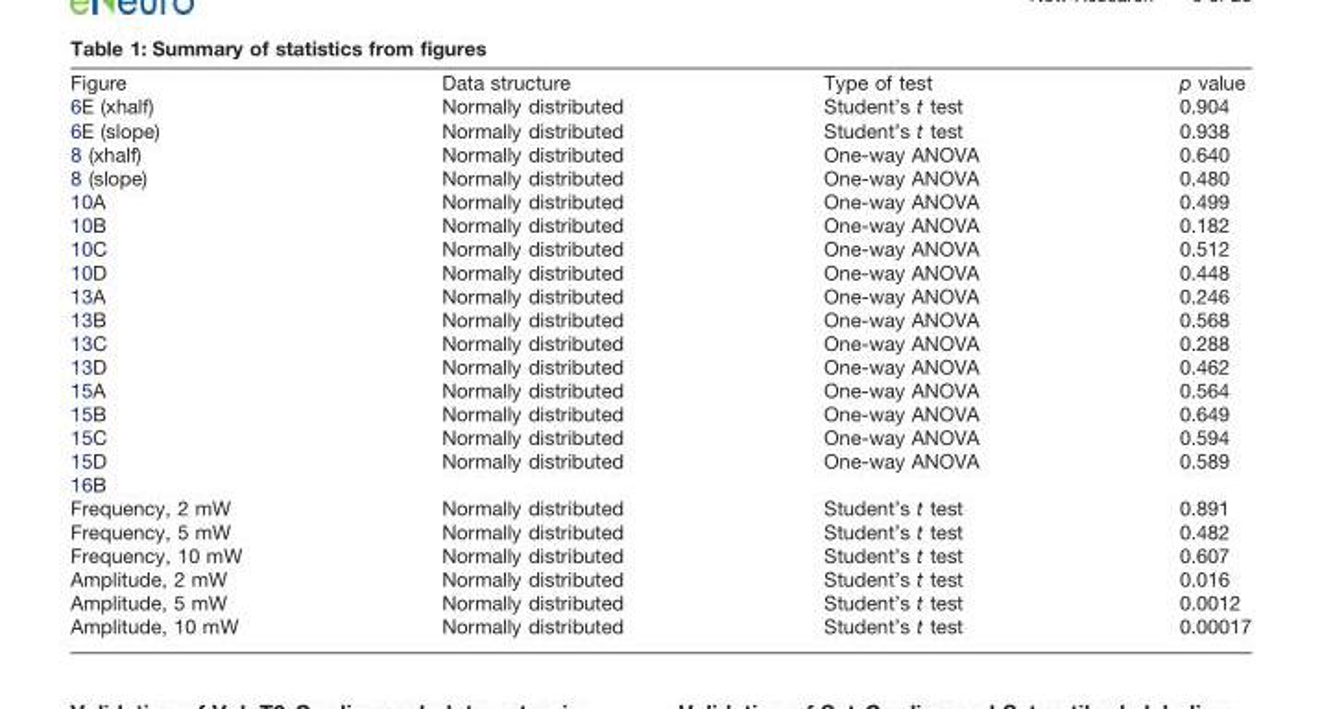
<table><thead><tr><td>Figure</td><td>Data structure</td><td>Type of test</td><td>p value</td></tr></thead><tbody><tr><td>6E (xhalf)</td><td>Normally distributed</td><td>Student’s t test</td><td>0.904</td></tr><tr><td>6E (slope)</td><td>Normally distributed</td><td>Student’s t test</td><td>0.938</td></tr><tr><td>8 (xhalf)</td><td>Normally distributed</td><td>One-way ANOVA</td><td>0.640</td></tr><tr><td>8 (slope)</td><td>Normally distributed</td><td>One-way ANOVA</td><td>0.480</td></tr><tr><td>10A</td><td>Normally distributed</td><td>One-way ANOVA</td><td>0.499</td></tr><tr><td>10B</td><td>Normally distributed</td><td>One-way ANOVA</td><td>0.182</td></tr><tr><td>10C</td><td>Normally distributed</td><td>One-way ANOVA</td><td>0.512</td></tr><tr><td>10D</td><td>Normally distributed</td><td>One-way ANOVA</td><td>0.448</td></tr><tr><td>13A</td><td>Normally distributed</td><td>One-way ANOVA</td><td>0.246</td></tr><tr><td>13B</td><td>Normally distributed</td><td>One-way ANOVA</td><td>0.568</td></tr><tr><td>13C</td><td>Normally distributed</td><td>One-way ANOVA</td><td>0.288</td></tr><tr><td>13D</td><td>Normally distributed</td><td>One-way ANOVA</td><td>0.462</td></tr><tr><td>15A</td><td>Normally distributed</td><td>One-way ANOVA</td><td>0.564</td></tr><tr><td>15B</td><td>Normally distributed</td><td>One-way ANOVA</td><td>0.649</td></tr><tr><td>15C</td><td>Normally distributed</td><td>One-way ANOVA</td><td>0.594</td></tr><tr><td>15D</td><td>Normally distributed</td><td>One-way ANOVA</td><td>0.589</td></tr><tr><td colspan="4">16B</td></tr><tr><td>Frequency, 2 mW</td><td>Normally distributed</td><td>Student’s t test</td><td>0.891</td></tr><tr><td>Frequency, 5 mW</td><td>Normally distributed</td><td>Student’s t test</td><td>0.482</td></tr><tr><td>Frequency, 10 mW</td><td>Normally distributed</td><td>Student’s t test</td><td>0.607</td></tr><tr><td>Amplitude, 2 mW</td><td>Normally distributed</td><td>Student’s t test</td><td>0.016</td></tr><tr><td>Amplitude, 5 mW</td><td>Normally distributed</td><td>Student’s t test</td><td>0.0012</td></tr><tr><td>Amplitude, 10 mW</td><td>Normally distributed</td><td>Student’s t test</td><td>0.00017</td></tr></tbody></table>